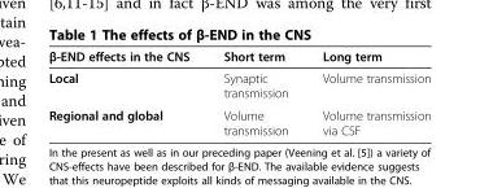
<table><thead><tr><td>β-END effects in the CNS</td><td>Short term</td><td>Long term</td></tr></thead><tbody><tr><td>Local</td><td>Synaptic transmission</td><td>Volume transmission</td></tr><tr><td>Regional and global</td><td>Volume transmission</td><td>Volume transmission via CSF</td></tr></tbody></table>